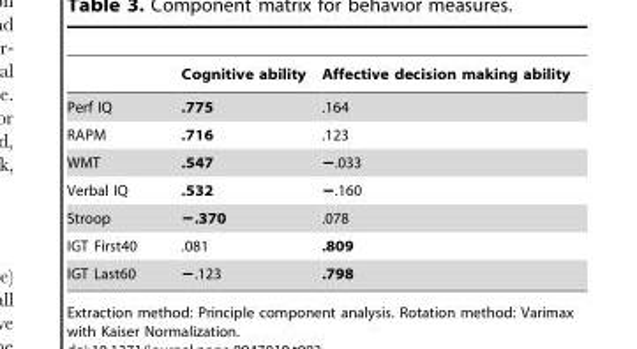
<table><thead><tr><td></td><td>Cognitive ability</td><td>Affective decision making ability</td></tr></thead><tbody><tr><td>Perf IQ</td><td>.775</td><td>.164</td></tr><tr><td>RAPM</td><td>.716</td><td>.123</td></tr><tr><td>WMT</td><td>.547</td><td>−.033</td></tr><tr><td>Verbal IQ</td><td>.532</td><td>−.160</td></tr><tr><td>Stroop</td><td>−.370</td><td>.078</td></tr><tr><td>IGT First40</td><td>.081</td><td>.809</td></tr><tr><td>IGT Last60</td><td>−.123</td><td>.798</td></tr></tbody></table>